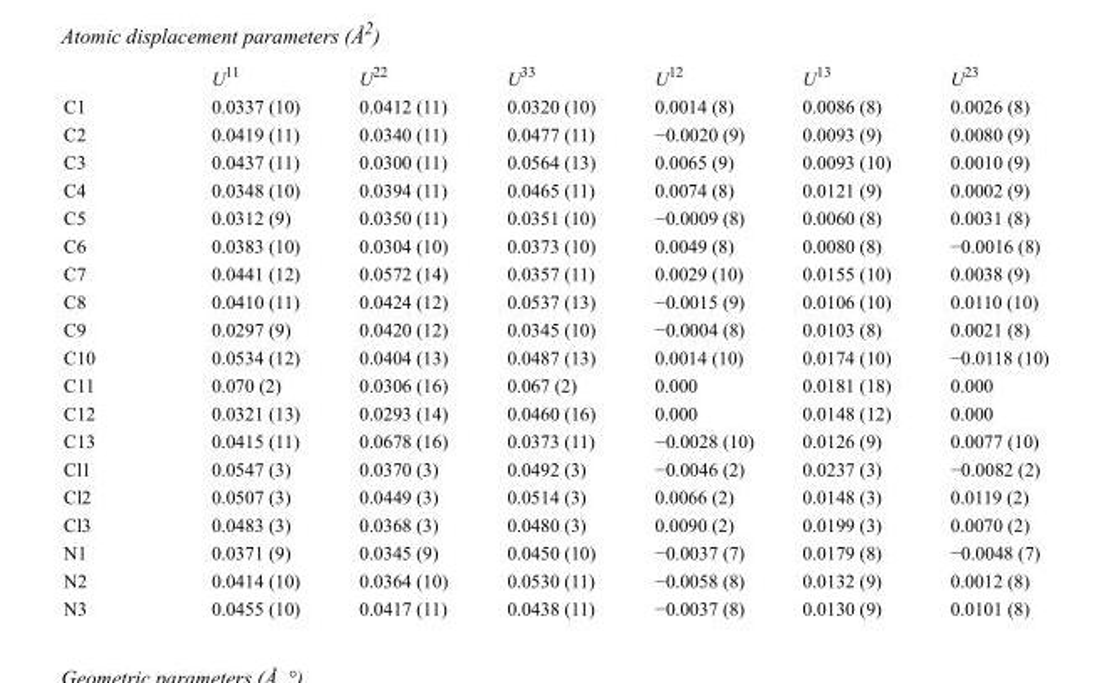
<table><thead><tr><td></td><td>U<sup>11</sup></td><td>U<sup>22</sup></td><td>U<sup>33</sup></td><td>U<sup>12</sup></td><td>U<sup>13</sup></td><td>U<sup>23</sup></td></tr></thead><tbody><tr><td>C1</td><td>0.0337 (10)</td><td>0.0412 (11)</td><td>0.0320 (10)</td><td>0.0014 (8)</td><td>0.0086 (8)</td><td>0.0026 (8)</td></tr><tr><td>C2</td><td>0.0419 (11)</td><td>0.0340 (11)</td><td>0.0477 (11)</td><td>−0.0020 (9)</td><td>0.0093 (9)</td><td>0.0080 (9)</td></tr><tr><td>C3</td><td>0.0437 (11)</td><td>0.0300 (11)</td><td>0.0564 (13)</td><td>0.0065 (9)</td><td>0.0093 (10)</td><td>0.0010 (9)</td></tr><tr><td>C4</td><td>0.0348 (10)</td><td>0.0394 (11)</td><td>0.0465 (11)</td><td>0.0074 (8)</td><td>0.0121 (9)</td><td>0.0002 (9)</td></tr><tr><td>C5</td><td>0.0312 (9)</td><td>0.0350 (11)</td><td>0.0351 (10)</td><td>−0.0009 (8)</td><td>0.0060 (8)</td><td>0.0031 (8)</td></tr><tr><td>C6</td><td>0.0383 (10)</td><td>0.0304 (10)</td><td>0.0373 (10)</td><td>0.0049 (8)</td><td>0.0080 (8)</td><td>−0.0016 (8)</td></tr><tr><td>C7</td><td>0.0441 (12)</td><td>0.0572 (14)</td><td>0.0357 (11)</td><td>0.0029 (10)</td><td>0.0155 (10)</td><td>0.0038 (9)</td></tr><tr><td>C8</td><td>0.0410 (11)</td><td>0.0424 (12)</td><td>0.0537 (13)</td><td>−0.0015 (9)</td><td>0.0106 (10)</td><td>0.0110 (10)</td></tr><tr><td>C9</td><td>0.0297 (9)</td><td>0.0420 (12)</td><td>0.0345 (10)</td><td>−0.0004 (8)</td><td>0.0103 (8)</td><td>0.0021 (8)</td></tr><tr><td>C10</td><td>0.0534 (12)</td><td>0.0404 (13)</td><td>0.0487 (13)</td><td>0.0014 (10)</td><td>0.0174 (10)</td><td>−0.0118 (10)</td></tr><tr><td>C11</td><td>0.070 (2)</td><td>0.0306 (16)</td><td>0.067 (2)</td><td>0.000</td><td>0.0181 (18)</td><td>0.000</td></tr><tr><td>C12</td><td>0.0321 (13)</td><td>0.0293 (14)</td><td>0.0460 (16)</td><td>0.000</td><td>0.0148 (12)</td><td>0.000</td></tr><tr><td>C13</td><td>0.0415 (11)</td><td>0.0678 (16)</td><td>0.0373 (11)</td><td>−0.0028 (10)</td><td>0.0126 (9)</td><td>0.0077 (10)</td></tr><tr><td>Cl1</td><td>0.0547 (3)</td><td>0.0370 (3)</td><td>0.0492 (3)</td><td>−0.0046 (2)</td><td>0.0237 (3)</td><td>−0.0082 (2)</td></tr><tr><td>Cl2</td><td>0.0507 (3)</td><td>0.0449 (3)</td><td>0.0514 (3)</td><td>0.0066 (2)</td><td>0.0148 (3)</td><td>0.0119 (2)</td></tr><tr><td>Cl3</td><td>0.0483 (3)</td><td>0.0368 (3)</td><td>0.0480 (3)</td><td>0.0090 (2)</td><td>0.0199 (3)</td><td>0.0070 (2)</td></tr><tr><td>N1</td><td>0.0371 (9)</td><td>0.0345 (9)</td><td>0.0450 (10)</td><td>−0.0037 (7)</td><td>0.0179 (8)</td><td>−0.0048 (7)</td></tr><tr><td>N2</td><td>0.0414 (10)</td><td>0.0364 (10)</td><td>0.0530 (11)</td><td>−0.0058 (8)</td><td>0.0132 (9)</td><td>0.0012 (8)</td></tr><tr><td>N3</td><td>0.0455 (10)</td><td>0.0417 (11)</td><td>0.0438 (11)</td><td>−0.0037 (8)</td><td>0.0130 (9)</td><td>0.0101 (8)</td></tr></tbody></table>